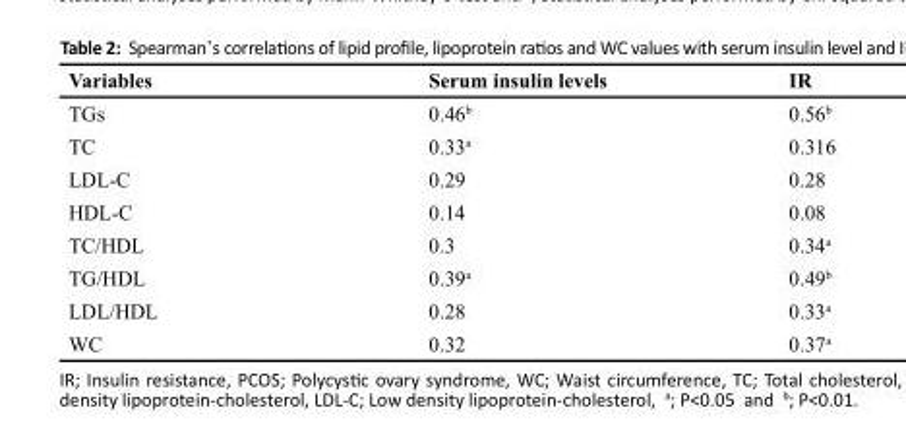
<table><thead><tr><td>Variables</td><td>Serum insulin levels</td><td>IR</td></tr></thead><tbody><tr><td>TGs</td><td>0.46<sup>b</sup></td><td>0.56<sup>b</sup></td></tr><tr><td>TC</td><td>0.33<sup>a</sup></td><td>0.316</td></tr><tr><td>LDL-C</td><td>0.29</td><td>0.28</td></tr><tr><td>HDL-C</td><td>0.14</td><td>0.08</td></tr><tr><td>TC/HDL</td><td>0.3</td><td>0.34<sup>a</sup></td></tr><tr><td>TG/HDL</td><td>0.39<sup>a</sup></td><td>0.49<sup>b</sup></td></tr><tr><td>LDL/HDL</td><td>0.28</td><td>0.33<sup>a</sup></td></tr><tr><td>WC</td><td>0.32</td><td>0.37a</td></tr></tbody></table>